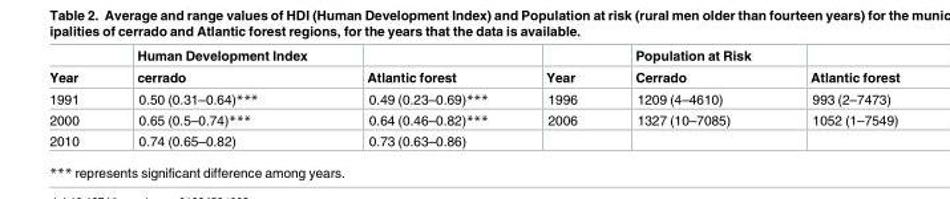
<table><thead><tr><td rowspan="2">Year</td><td rowspan="2">Human Development Index cerrado</td><td rowspan="2">Atlantic forest</td><td rowspan="2">Year</td><td rowspan="2">Population at Risk Cerrado</td><td rowspan="2">Atlantic forest</td></tr><tr></tr></thead><tbody><tr><td>1991</td><td>0.50 (0.31–0.64)***</td><td>0.49 (0.23–0.69)***</td><td>1996</td><td>1209 (4–4610)</td><td>993 (2–7473)</td></tr><tr><td>2000</td><td>0.65 (0.5–0.74)***</td><td>0.64 (0.46–0.82)***</td><td>2006</td><td>1327 (10–7085)</td><td>1052 (1–7549)</td></tr><tr><td>2010</td><td>0.74 (0.65–0.82)</td><td>0.73 (0.63–0.86)</td><td></td><td></td><td></td></tr></tbody></table>